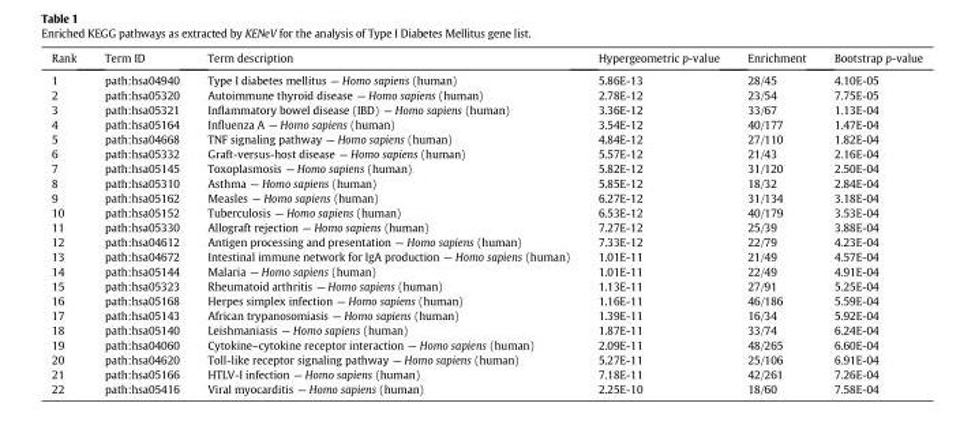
<table><thead><tr><td>Rank</td><td>Term ID</td><td>Term description</td><td>Hypergeometric p-value</td><td>Enrichment</td><td>Bootstrap p-value</td></tr></thead><tbody><tr><td>1</td><td>path:hsa04940</td><td>Type I diabetes mellitus — Homo sapiens (human)</td><td>5.86E-13</td><td>28/45</td><td>4.10E-05</td></tr><tr><td>2</td><td>path:hsa05320</td><td>Autoimmune thyroid disease — Homo sapiens (human)</td><td>2.78E-12</td><td>23/54</td><td>7.75E-05</td></tr><tr><td>3</td><td>path:hsa05321</td><td>Inflammatory bowel disease (IBD) — Homo sapiens (human)</td><td>3.36E-12</td><td>33/67</td><td>1.13E-04</td></tr><tr><td>4</td><td>path:hsa05164</td><td>Influenza A — Homo sapiens (human)</td><td>3.54E-12</td><td>40/177</td><td>1.47E-04</td></tr><tr><td>5</td><td>path:hsa04668</td><td>TNF signaling pathway — Homo sapiens (human)</td><td>4.84E-12</td><td>27/110</td><td>1.82E-04</td></tr><tr><td>6</td><td>path:hsa05332</td><td>Graft-versus-host disease — Homo sapiens (human)</td><td>5.57E-12</td><td>21/43</td><td>2.16E-04</td></tr><tr><td>7</td><td>path:hsa05145</td><td>Toxoplasmosis — Homo sapiens (human)</td><td>5.82E-12</td><td>31/120</td><td>2.50E-04</td></tr><tr><td>8</td><td>path:hsa05310</td><td>Asthma — Homo sapiens (human)</td><td>5.85E-12</td><td>18/32</td><td>2.84E-04</td></tr><tr><td>9</td><td>path:hsa05162</td><td>Measles — Homo sapiens (human)</td><td>6.27E-12</td><td>31/134</td><td>3.18E-04</td></tr><tr><td>10</td><td>path:hsa05152</td><td>Tuberculosis — Homo sapiens (human)</td><td>6.53E-12</td><td>40/179</td><td>3.53E-04</td></tr><tr><td>11</td><td>path:hsa05330</td><td>Allograft rejection — Homo sapiens (human)</td><td>7.27E-12</td><td>25/39</td><td>3.88E-04</td></tr><tr><td>12</td><td>path:hsa04612</td><td>Antigen processing and presentation — Homo sapiens (human)</td><td>7.33E-12</td><td>22/79</td><td>4.23E-04</td></tr><tr><td>13</td><td>path:hsa04672</td><td>Intestinal immune network for IgA production — Homo sapiens (human)</td><td>1.01E-11</td><td>21/49</td><td>4.57E-04</td></tr><tr><td>14</td><td>path:hsa05144</td><td>Malaria — Homo sapiens (human)</td><td>1.01E-11</td><td>22/49</td><td>4.91E-04</td></tr><tr><td>15</td><td>path:hsa05323</td><td>Rheumatoid arthritis — Homo sapiens (human)</td><td>1.13E-11</td><td>27/91</td><td>5.25E-04</td></tr><tr><td>16</td><td>path:hsa05168</td><td>Herpes simplex infection — Homo sapiens (human)</td><td>1.16E-11</td><td>46/186</td><td>5.59E-04</td></tr><tr><td>17</td><td>path:hsa05143</td><td>African trypanosomiasis — Homo sapiens (human)</td><td>1.39E-11</td><td>16/34</td><td>5.92E-04</td></tr><tr><td>18</td><td>path:hsa05140</td><td>Leishmaniasis — Homo sapiens (human)</td><td>1.87E-11</td><td>33/74</td><td>6.24E-04</td></tr><tr><td>19</td><td>path:hsa04060</td><td>Cytokine–cytokine receptor interaction — Homo sapiens (human)</td><td>2.09E-11</td><td>48/265</td><td>6.60E-04</td></tr><tr><td>20</td><td>path:hsa04620</td><td>Toll-like receptor signaling pathway — Homo sapiens (human)</td><td>5.27E-11</td><td>25/106</td><td>6.91E-04</td></tr><tr><td>21</td><td>path:hsa05166</td><td>HTLV-I infection — Homo sapiens (human)</td><td>7.18E-11</td><td>42/261</td><td>7.26E-04</td></tr><tr><td>22</td><td>path:hsa05416</td><td>Viral myocarditis — Homo sapiens (human)</td><td>2.25E-10</td><td>18/60</td><td>7.58E-04</td></tr></tbody></table>